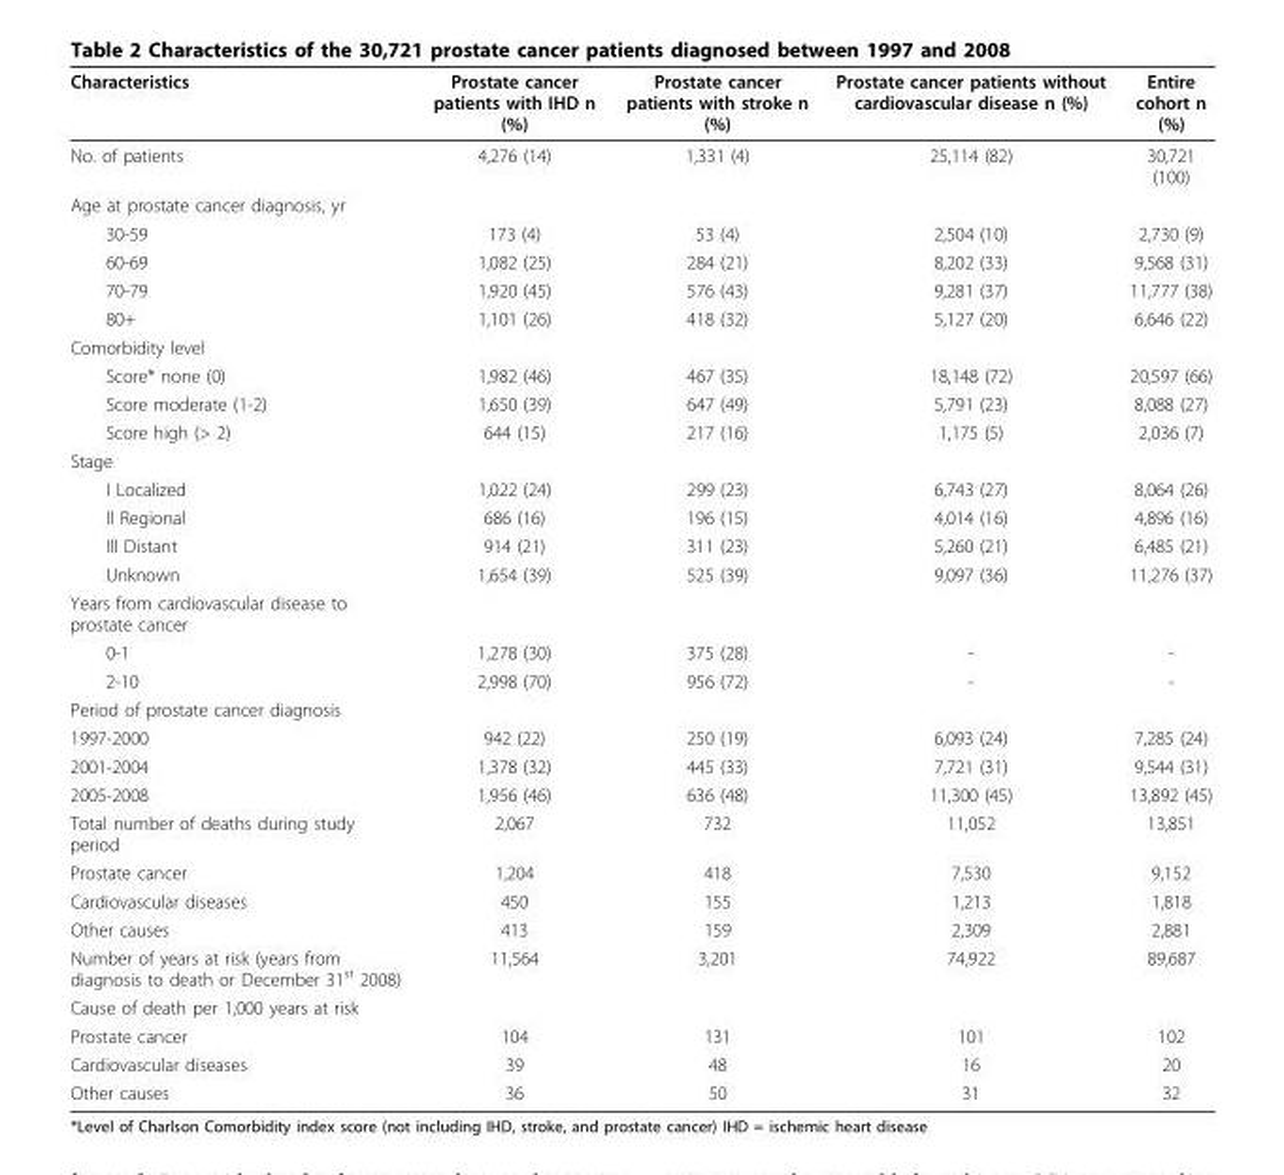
<table><thead><tr><td>Characteristics</td><td>Prostate cancer patients with IHD n (%)</td><td>Prostate cancer patients with stroke n (%)</td><td>Prostate cancer patients without cardiovascular disease n (%)</td><td>Entire cohort n (%)</td></tr></thead><tbody><tr><td>No. of patients</td><td>4,276 (14)</td><td>1,331 (4)</td><td>25,114 (82)</td><td>30,721 (100)</td></tr><tr><td colspan="5">Age at prostate cancer diagnosis, yr</td></tr><tr><td>30-59</td><td>173 (4)</td><td>53 (4)</td><td>2,504 (10)</td><td>2,730 (9)</td></tr><tr><td>60-69</td><td>1,082 (25)</td><td>284 (21)</td><td>8,202 (33)</td><td>9,568 (31)</td></tr><tr><td>70-79</td><td>1,920 (45)</td><td>576 (43)</td><td>9,281 (37)</td><td>11,777 (38)</td></tr><tr><td>80+</td><td>1,101 (26)</td><td>418 (32)</td><td>5,127 (20)</td><td>6,646 (22)</td></tr><tr><td colspan="5">Comorbidity level</td></tr><tr><td>Score* none (0)</td><td>1,982 (46)</td><td>467 (35)</td><td>18,148 (72)</td><td>20,597 (66)</td></tr><tr><td>Score moderate (1-2)</td><td>1,650 (39)</td><td>647 (49)</td><td>5,791 (23)</td><td>8,088 (27)</td></tr><tr><td>Score high (&gt; 2)</td><td>644 (15)</td><td>217 (16)</td><td>1,175 (5)</td><td>2,036 (7)</td></tr><tr><td colspan="5">Stage</td></tr><tr><td>I Localized</td><td>1,022 (24)</td><td>299 (23)</td><td>6,743 (27)</td><td>8,064 (26)</td></tr><tr><td>ll Regional</td><td>686 (16)</td><td>196 (15)</td><td>4,014 (16)</td><td>4,896 (16)</td></tr><tr><td>Ill Distant</td><td>914 (21)</td><td>311 (23)</td><td>5,260 (21)</td><td>6,485 (21)</td></tr><tr><td>Unknown</td><td>1,654 (39)</td><td>525 (39)</td><td>9,097 (36)</td><td>11,276 (37)</td></tr><tr><td colspan="5">Years from cardiovascular disease to prostate cancer</td></tr><tr><td>0-1</td><td>1,278 (30)</td><td>375 (28)</td><td>-</td><td>-</td></tr><tr><td>2-10</td><td>2,998 (70)</td><td>956 (72)</td><td>-</td><td>-</td></tr><tr><td colspan="5">Period of prostate cancer diagnosis</td></tr><tr><td>1997-2000</td><td>942 (22)</td><td>250 (19)</td><td>6,093 (24)</td><td>7,285 (24)</td></tr><tr><td>2001-2004</td><td>1,378 (32)</td><td>445 (33)</td><td>7,721 (31)</td><td>9,544 (31)</td></tr><tr><td>2005-2008</td><td>1,956 (46)</td><td>636 (48)</td><td>11,300 (45)</td><td>13,892 (45)</td></tr><tr><td>Total number of deaths during study period</td><td>2,067</td><td>732</td><td>11,052</td><td>13,851</td></tr><tr><td>Prostate cancer</td><td>1,204</td><td>418</td><td>7,530</td><td>9,152</td></tr><tr><td>Cardiovascular diseases</td><td>450</td><td>155</td><td>1,213</td><td>1,818</td></tr><tr><td>Other causes</td><td>413</td><td>159</td><td>2,309</td><td>2,881</td></tr><tr><td>Number of years at risk (years from diagnosis to death or December 31<sup>st</sup> 2008)</td><td>11,564</td><td>3,201</td><td>74,922</td><td>89,687</td></tr><tr><td colspan="5">Cause of death per 1,000 years at risk</td></tr><tr><td>Prostate cancer</td><td>104</td><td>131</td><td>101</td><td>102</td></tr><tr><td>Cardiovascular diseases</td><td>39</td><td>48</td><td>16</td><td>20</td></tr><tr><td>Other causes</td><td>36</td><td>50</td><td>31</td><td>32</td></tr></tbody></table>